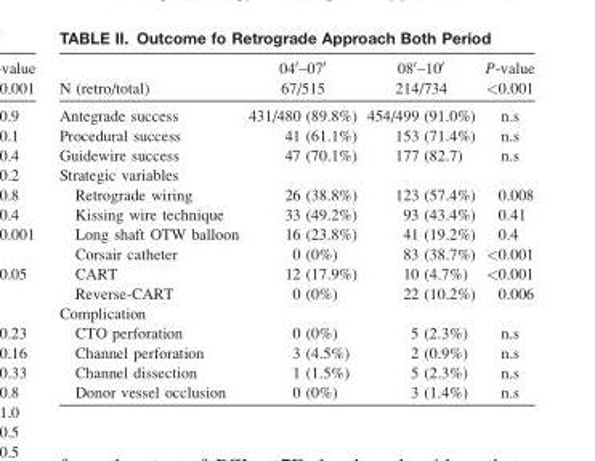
<table><thead><tr><td>N (retro/total)</td><td>04′–07′ 67/515</td><td>08′–10′ 214/734</td><td>P-value &lt;0.001</td></tr></thead><tbody><tr><td>Antegrade success</td><td>431/480 (89.8%)</td><td>454/499 (91.0%)</td><td>n.s</td></tr><tr><td>Procedural success</td><td>41 (61.1%)</td><td>153 (71.4%)</td><td>n.s</td></tr><tr><td>Guidewire success</td><td>47 (70.1%)</td><td>177 (82.7)</td><td>n.s</td></tr><tr><td colspan="4">Strategic variables</td></tr><tr><td>Retrograde wiring</td><td>26 (38.8%)</td><td>123 (57.4%)</td><td>0.008</td></tr><tr><td>Kissing wire technique</td><td>33 (49.2%)</td><td>93 (43.4%)</td><td>0.41</td></tr><tr><td>Long shaft OTW balloon</td><td>16 (23.8%)</td><td>41 (19.2%)</td><td>0.4</td></tr><tr><td>Corsair catheter</td><td>0 (0%)</td><td>83 (38.7%)</td><td>&lt;0.001</td></tr><tr><td>CART</td><td>12 (17.9%)</td><td>10 (4.7%)</td><td>&lt;0.001</td></tr><tr><td>Reverse-CART</td><td>0 (0%)</td><td>22 (10.2%)</td><td>0.006</td></tr><tr><td colspan="4">Complication</td></tr><tr><td>CTO perforation</td><td>0 (0%)</td><td>5 (2.3%)</td><td>n.s</td></tr><tr><td>Channel perforation</td><td>3 (4.5%)</td><td>2 (0.9%)</td><td>n.s</td></tr><tr><td>Channel dissection</td><td>1 (1.5%)</td><td>5 (2.3%)</td><td>n.s</td></tr><tr><td>Donor vessel occlusion</td><td>0 (0%)</td><td>3 (1.4%)</td><td>n.s</td></tr></tbody></table>